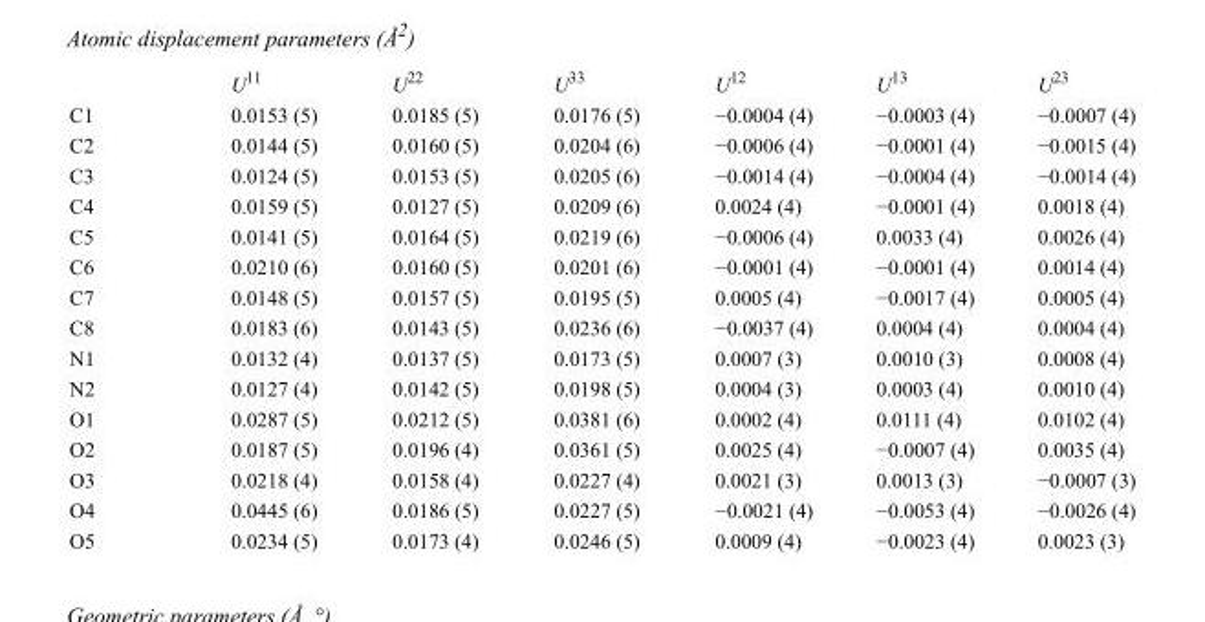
<table><thead><tr><td></td><td>U<sup>11</sup></td><td>U<sup>22</sup></td><td>U<sup>33</sup></td><td>U<sup>12</sup></td><td>U<sup>13</sup></td><td>U<sup>23</sup></td></tr></thead><tbody><tr><td>C1</td><td>0.0153 (5)</td><td>0.0185 (5)</td><td>0.0176 (5)</td><td>−0.0004 (4)</td><td>−0.0003 (4)</td><td>−0.0007 (4)</td></tr><tr><td>C2</td><td>0.0144 (5)</td><td>0.0160 (5)</td><td>0.0204 (6)</td><td>−0.0006 (4)</td><td>−0.0001 (4)</td><td>−0.0015 (4)</td></tr><tr><td>C3</td><td>0.0124 (5)</td><td>0.0153 (5)</td><td>0.0205 (6)</td><td>−0.0014 (4)</td><td>−0.0004 (4)</td><td>−0.0014 (4)</td></tr><tr><td>C4</td><td>0.0159 (5)</td><td>0.0127 (5)</td><td>0.0209 (6)</td><td>0.0024 (4)</td><td>−0.0001 (4)</td><td>0.0018 (4)</td></tr><tr><td>C5</td><td>0.0141 (5)</td><td>0.0164 (5)</td><td>0.0219 (6)</td><td>−0.0006 (4)</td><td>0.0033 (4)</td><td>0.0026 (4)</td></tr><tr><td>C6</td><td>0.0210 (6)</td><td>0.0160 (5)</td><td>0.0201 (6)</td><td>−0.0001 (4)</td><td>−0.0001 (4)</td><td>0.0014 (4)</td></tr><tr><td>C7</td><td>0.0148 (5)</td><td>0.0157 (5)</td><td>0.0195 (5)</td><td>0.0005 (4)</td><td>−0.0017 (4)</td><td>0.0005 (4)</td></tr><tr><td>C8</td><td>0.0183 (6)</td><td>0.0143 (5)</td><td>0.0236 (6)</td><td>−0.0037 (4)</td><td>0.0004 (4)</td><td>0.0004 (4)</td></tr><tr><td>N1</td><td>0.0132 (4)</td><td>0.0137 (5)</td><td>0.0173 (5)</td><td>0.0007 (3)</td><td>0.0010 (3)</td><td>0.0008 (4)</td></tr><tr><td>N2</td><td>0.0127 (4)</td><td>0.0142 (5)</td><td>0.0198 (5)</td><td>0.0004 (3)</td><td>0.0003 (4)</td><td>0.0010 (4)</td></tr><tr><td>O1</td><td>0.0287 (5)</td><td>0.0212 (5)</td><td>0.0381 (6)</td><td>0.0002 (4)</td><td>0.0111 (4)</td><td>0.0102 (4)</td></tr><tr><td>O2</td><td>0.0187 (5)</td><td>0.0196 (4)</td><td>0.0361 (5)</td><td>0.0025 (4)</td><td>−0.0007 (4)</td><td>0.0035 (4)</td></tr><tr><td>O3</td><td>0.0218 (4)</td><td>0.0158 (4)</td><td>0.0227 (4)</td><td>0.0021 (3)</td><td>0.0013 (3)</td><td>−0.0007 (3)</td></tr><tr><td>O4</td><td>0.0445 (6)</td><td>0.0186 (5)</td><td>0.0227 (5)</td><td>−0.0021 (4)</td><td>−0.0053 (4)</td><td>−0.0026 (4)</td></tr><tr><td>O5</td><td>0.0234 (5)</td><td>0.0173 (4)</td><td>0.0246 (5)</td><td>0.0009 (4)</td><td>−0.0023 (4)</td><td>0.0023 (3)</td></tr></tbody></table>